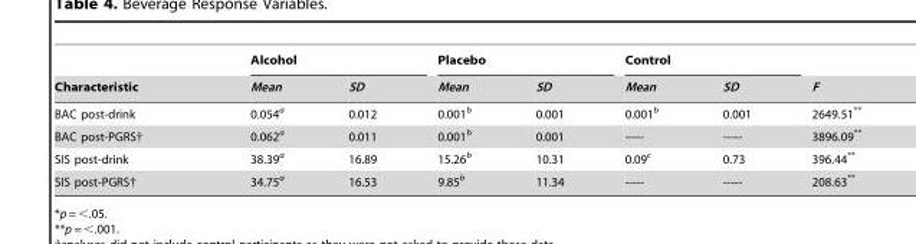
<table><thead><tr><td rowspan="2">Characteristic</td><td colspan="2">Alcohol</td><td colspan="2">Placebo</td><td colspan="2">Control</td><td rowspan="2">F</td></tr><tr><td>Mean</td><td>SD</td><td>Mean</td><td>SD</td><td>Mean</td><td>SD</td></tr></thead><tbody><tr><td>BAC post-drink</td><td>0.054<sup>a</sup></td><td>0.012</td><td>0.001<sup>b</sup></td><td>0.001</td><td>0.001<sup>b</sup></td><td>0.001</td><td>2649.51**</td></tr><tr><td>BAC post-PGRS†</td><td>0.062<sup>a</sup></td><td>0.011</td><td>0.001<sup>b</sup></td><td>0.001</td><td>-----</td><td>-----</td><td>3896.09**</td></tr><tr><td>SIS post-drink</td><td>38.39<sup>a</sup></td><td>16.89</td><td>15.26<sup>b</sup></td><td>10.31</td><td>0.09<sup>c</sup></td><td>0.73</td><td>396.44**</td></tr><tr><td>SIS post-PGRS†</td><td>34.75<sup>a</sup></td><td>16.53</td><td>9.85<sup>b</sup></td><td>11.34</td><td>-----</td><td>-----</td><td>208.63**</td></tr></tbody></table>